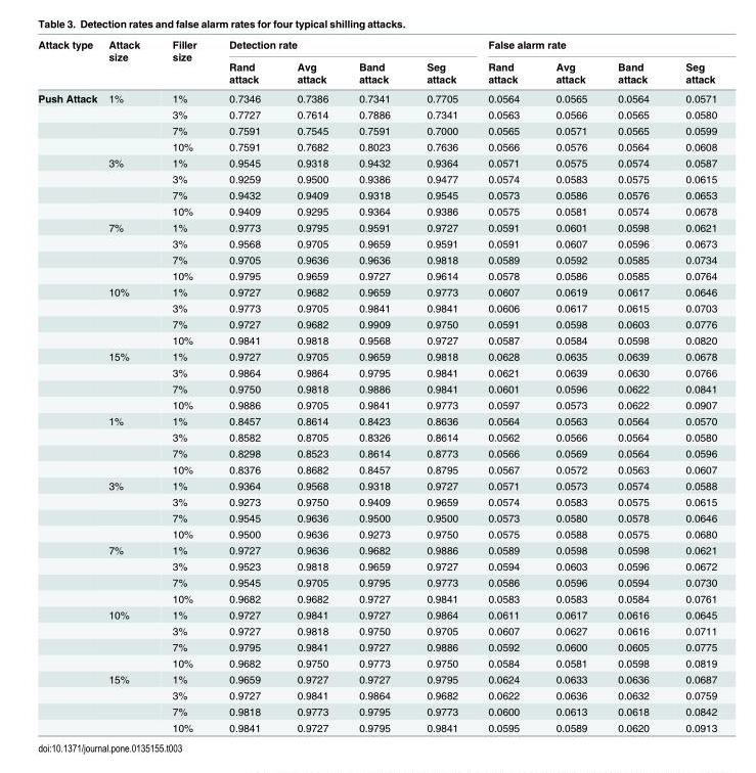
<table><thead><tr><td rowspan="2">Attack type</td><td rowspan="2">Attack size</td><td rowspan="2">Filler size</td><td colspan="4">Detection rate</td><td colspan="4">False alarm rate</td></tr><tr><td>Rand attack</td><td>Avg attack</td><td>Band attack</td><td>Seg attack</td><td>Rand attack</td><td>Avg attack</td><td>Band attack</td><td>Seg attack</td></tr></thead><tbody><tr><td rowspan="40">Push Attack</td><td>1%</td><td>1%</td><td>0.7346</td><td>0.7386</td><td>0.7341</td><td>0.7705</td><td>0.0564</td><td>0.0565</td><td>0.0564</td><td>0.0571</td></tr><tr><td></td><td>3%</td><td>0.7727</td><td>0.7614</td><td>0.7886</td><td>0.7341</td><td>0.0563</td><td>0.0566</td><td>0.0565</td><td>0.0580</td></tr><tr><td></td><td>7%</td><td>0.7591</td><td>0.7545</td><td>0.7591</td><td>0.7000</td><td>0.0565</td><td>0.0571</td><td>0.0565</td><td>0.0599</td></tr><tr><td></td><td>10%</td><td>0.7591</td><td>0.7682</td><td>0.8023</td><td>0.7636</td><td>0.0566</td><td>0.0576</td><td>0.0564</td><td>0.0608</td></tr><tr><td>3%</td><td>1%</td><td>0.9545</td><td>0.9318</td><td>0.9432</td><td>0.9364</td><td>0.0571</td><td>0.0575</td><td>0.0574</td><td>0.0587</td></tr><tr><td></td><td>3%</td><td>0.9259</td><td>0.9500</td><td>0.9386</td><td>0.9477</td><td>0.0574</td><td>0.0583</td><td>0.0575</td><td>0.0615</td></tr><tr><td></td><td>7%</td><td>0.9432</td><td>0.9409</td><td>0.9318</td><td>0.9545</td><td>0.0573</td><td>0.0586</td><td>0.0576</td><td>0.0653</td></tr><tr><td></td><td>10%</td><td>0.9409</td><td>0.9295</td><td>0.9364</td><td>0.9386</td><td>0.0575</td><td>0.0581</td><td>0.0574</td><td>0.0678</td></tr><tr><td>7%</td><td>1%</td><td>0.9773</td><td>0.9795</td><td>0.9591</td><td>0.9727</td><td>0.0591</td><td>0.0601</td><td>0.0598</td><td>0.0621</td></tr><tr><td></td><td>3%</td><td>0.9568</td><td>0.9705</td><td>0.9659</td><td>0.9591</td><td>0.0591</td><td>0.0607</td><td>0.0596</td><td>0.0673</td></tr><tr><td></td><td>7%</td><td>0.9705</td><td>0.9636</td><td>0.9636</td><td>0.9818</td><td>0.0589</td><td>0.0592</td><td>0.0585</td><td>0.0734</td></tr><tr><td></td><td>10%</td><td>0.9795</td><td>0.9659</td><td>0.9727</td><td>0.9614</td><td>0.0578</td><td>0.0586</td><td>0.0585</td><td>0.0764</td></tr><tr><td>10%</td><td>1%</td><td>0.9727</td><td>0.9682</td><td>0.9659</td><td>0.9773</td><td>0.0607</td><td>0.0619</td><td>0.0617</td><td>0.0646</td></tr><tr><td></td><td>3%</td><td>0.9773</td><td>0.9705</td><td>0.9841</td><td>0.9841</td><td>0.0606</td><td>0.0617</td><td>0.0615</td><td>0.0703</td></tr><tr><td></td><td>7%</td><td>0.9727</td><td>0.9682</td><td>0.9909</td><td>0.9750</td><td>0.0591</td><td>0.0598</td><td>0.0603</td><td>0.0776</td></tr><tr><td></td><td>10%</td><td>0.9841</td><td>0.9818</td><td>0.9568</td><td>0.9727</td><td>0.0587</td><td>0.0584</td><td>0.0598</td><td>0.0820</td></tr><tr><td>15%</td><td>1%</td><td>0.9727</td><td>0.9705</td><td>0.9659</td><td>0.9818</td><td>0.0628</td><td>0.0635</td><td>0.0639</td><td>0.0678</td></tr><tr><td></td><td>3%</td><td>0.9864</td><td>0.9864</td><td>0.9795</td><td>0.9841</td><td>0.0621</td><td>0.0639</td><td>0.0630</td><td>0.0766</td></tr><tr><td></td><td>7%</td><td>0.9750</td><td>0.9818</td><td>0.9886</td><td>0.9841</td><td>0.0601</td><td>0.0596</td><td>0.0622</td><td>0.0841</td></tr><tr><td></td><td>10%</td><td>0.9886</td><td>0.9705</td><td>0.9841</td><td>0.9773</td><td>0.0597</td><td>0.0573</td><td>0.0622</td><td>0.0907</td></tr><tr><td>1%</td><td>1%</td><td>0.8457</td><td>0.8614</td><td>0.8423</td><td>0.8636</td><td>0.0564</td><td>0.0563</td><td>0.0564</td><td>0.0570</td></tr><tr><td></td><td>3%</td><td>0.8582</td><td>0.8705</td><td>0.8326</td><td>0.8614</td><td>0.0562</td><td>0.0566</td><td>0.0564</td><td>0.0580</td></tr><tr><td></td><td>7%</td><td>0.8298</td><td>0.8523</td><td>0.8614</td><td>0.8773</td><td>0.0566</td><td>0.0569</td><td>0.0564</td><td>0.0596</td></tr><tr><td></td><td>10%</td><td>0.8376</td><td>0.8682</td><td>0.8457</td><td>0.8795</td><td>0.0567</td><td>0.0572</td><td>0.0563</td><td>0.0607</td></tr><tr><td>3%</td><td>1%</td><td>0.9364</td><td>0.9568</td><td>0.9318</td><td>0.9727</td><td>0.0571</td><td>0.0573</td><td>0.0574</td><td>0.0588</td></tr><tr><td></td><td>3%</td><td>0.9273</td><td>0.9750</td><td>0.9409</td><td>0.9659</td><td>0.0574</td><td>0.0583</td><td>0.0575</td><td>0.0615</td></tr><tr><td></td><td>7%</td><td>0.9545</td><td>0.9636</td><td>0.9500</td><td>0.9500</td><td>0.0573</td><td>0.0580</td><td>0.0578</td><td>0.0646</td></tr><tr><td></td><td>10%</td><td>0.9500</td><td>0.9636</td><td>0.9273</td><td>0.9750</td><td>0.0575</td><td>0.0588</td><td>0.0575</td><td>0.0680</td></tr><tr><td>7%</td><td>1%</td><td>0.9727</td><td>0.9636</td><td>0.9682</td><td>0.9886</td><td>0.0589</td><td>0.0598</td><td>0.0598</td><td>0.0621</td></tr><tr><td></td><td>3%</td><td>0.9523</td><td>0.9818</td><td>0.9659</td><td>0.9727</td><td>0.0594</td><td>0.0603</td><td>0.0596</td><td>0.0672</td></tr><tr><td></td><td>7%</td><td>0.9545</td><td>0.9705</td><td>0.9795</td><td>0.9773</td><td>0.0586</td><td>0.0596</td><td>0.0594</td><td>0.0730</td></tr><tr><td></td><td>10%</td><td>0.9682</td><td>0.9682</td><td>0.9727</td><td>0.9841</td><td>0.0583</td><td>0.0583</td><td>0.0584</td><td>0.0761</td></tr><tr><td>10%</td><td>1%</td><td>0.9727</td><td>0.9841</td><td>0.9727</td><td>0.9864</td><td>0.0611</td><td>0.0617</td><td>0.0616</td><td>0.0645</td></tr><tr><td></td><td>3%</td><td>0.9727</td><td>0.9818</td><td>0.9750</td><td>0.9705</td><td>0.0607</td><td>0.0627</td><td>0.0616</td><td>0.0711</td></tr><tr><td></td><td>7%</td><td>0.9795</td><td>0.9841</td><td>0.9727</td><td>0.9886</td><td>0.0592</td><td>0.0600</td><td>0.0605</td><td>0.0775</td></tr><tr><td></td><td>10%</td><td>0.9682</td><td>0.9750</td><td>0.9773</td><td>0.9750</td><td>0.0584</td><td>0.0581</td><td>0.0598</td><td>0.0819</td></tr><tr><td>15%</td><td>1%</td><td>0.9659</td><td>0.9727</td><td>0.9727</td><td>0.9795</td><td>0.0624</td><td>0.0633</td><td>0.0636</td><td>0.0687</td></tr><tr><td></td><td>3%</td><td>0.9727</td><td>0.9841</td><td>0.9864</td><td>0.9682</td><td>0.0622</td><td>0.0636</td><td>0.0632</td><td>0.0759</td></tr><tr><td></td><td>7%</td><td>0.9818</td><td>0.9773</td><td>0.9795</td><td>0.9773</td><td>0.0600</td><td>0.0613</td><td>0.0618</td><td>0.0842</td></tr><tr><td></td><td>10%</td><td>0.9841</td><td>0.9727</td><td>0.9795</td><td>0.9841</td><td>0.0595</td><td>0.0589</td><td>0.0620</td><td>0.0913</td></tr></tbody></table>